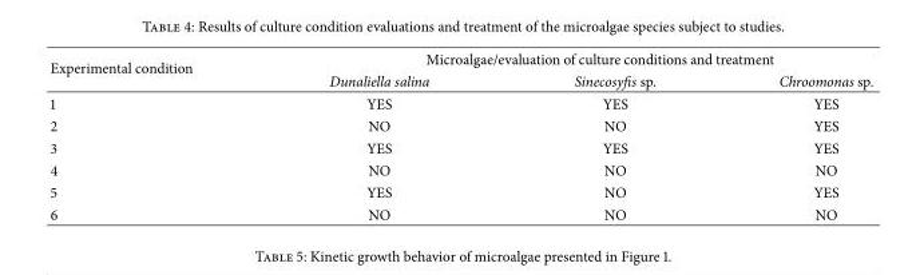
<table><thead><tr><td rowspan="2">Experimental condition</td><td colspan="3">Microalgae/evaluation of culture conditions and treatment</td></tr><tr><td>Dunaliella salina</td><td>Sinecosyfis sp.</td><td>Chroomonas sp.</td></tr></thead><tbody><tr><td>1</td><td>YES</td><td>YES</td><td>YES</td></tr><tr><td>2</td><td>NO</td><td>NO</td><td>YES</td></tr><tr><td>3</td><td>YES</td><td>YES</td><td>YES</td></tr><tr><td>4</td><td>NO</td><td>NO</td><td>NO</td></tr><tr><td>5</td><td>YES</td><td>NO</td><td>YES</td></tr><tr><td>6</td><td>NO</td><td>NO</td><td>NO</td></tr></tbody></table>